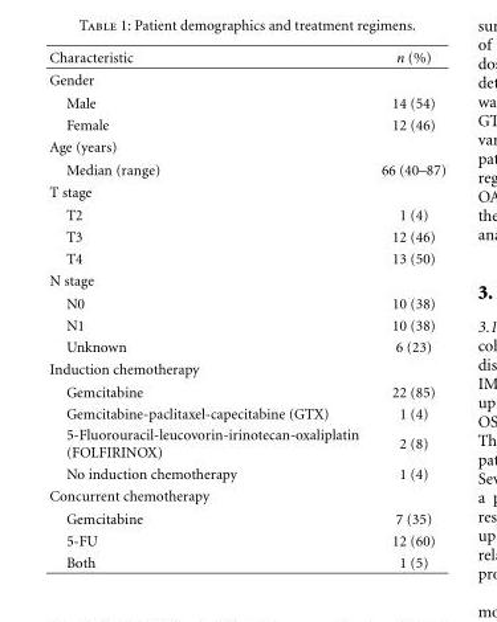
<table><thead><tr><td>Characteristic</td><td>n (%)</td></tr></thead><tbody><tr><td colspan="2">Gender</td></tr><tr><td>Male</td><td>14 (54)</td></tr><tr><td>Female</td><td>12 (46)</td></tr><tr><td colspan="2">Age (years)</td></tr><tr><td>Median (range)</td><td>66 (40–87)</td></tr><tr><td colspan="2">T stage</td></tr><tr><td>T2</td><td>1 (4)</td></tr><tr><td>T3</td><td>12 (46)</td></tr><tr><td>T4</td><td>13 (50)</td></tr><tr><td colspan="2">N stage</td></tr><tr><td>N0</td><td>10 (38)</td></tr><tr><td>N1</td><td>10 (38)</td></tr><tr><td>Unknown</td><td>6 (23)</td></tr><tr><td colspan="2">Induction chemotherapy</td></tr><tr><td>Gemcitabine</td><td>22 (85)</td></tr><tr><td>Gemcitabine-paclitaxel-capecitabine (GTX)</td><td>1 (4)</td></tr><tr><td>5-Fluorouracil-leucovorin-irinotecan-oxaliplatin (FOLFIRINOX)</td><td>2 (8)</td></tr><tr><td>No induction chemotherapy</td><td>1 (4)</td></tr><tr><td colspan="2">Concurrent chemotherapy</td></tr><tr><td>Gemcitabine</td><td>7 (35)</td></tr><tr><td>5-FU</td><td>12 (60)</td></tr><tr><td>Both</td><td>1 (5)</td></tr></tbody></table>